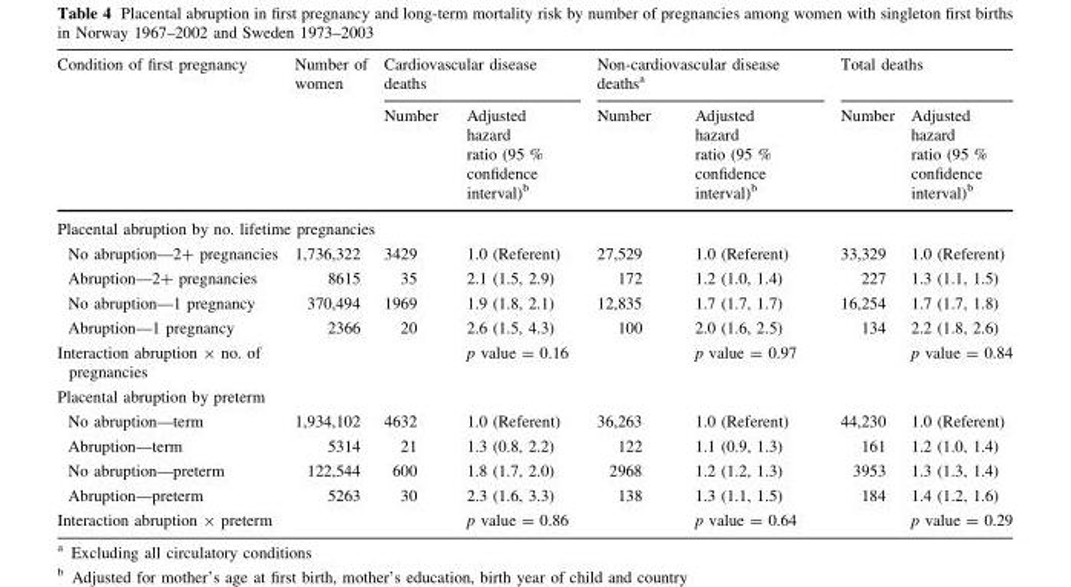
<table><thead><tr><td rowspan="2">Condition of first pregnancy</td><td rowspan="2">Number of women</td><td colspan="2">Cardiovascular disease deaths</td><td colspan="2">Non-cardiovascular disease deaths<sup>a</sup></td><td colspan="2">Total deaths</td></tr><tr><td>Number</td><td>Adjusted hazard ratio (95 % confidence interval)<sup>b</sup></td><td>Number</td><td>Adjusted hazard ratio (95 % confidence interval)<sup>b</sup></td><td>Number</td><td>Adjusted hazard ratio (95 % confidence interval)<sup>b</sup></td></tr></thead><tbody><tr><td colspan="8">Placental abruption by no. lifetime pregnancies</td></tr><tr><td>No abruption—2+ pregnancies</td><td>1,736,322</td><td>3429</td><td>1.0 (Referent)</td><td>27,529</td><td>1.0 (Referent)</td><td>33,329</td><td>1.0 (Referent)</td></tr><tr><td>Abruption—2+ pregnancies</td><td>8615</td><td>35</td><td>2.1 (1.5, 2.9)</td><td>172</td><td>1.2 (1.0, 1.4)</td><td>227</td><td>1.3 (1.1, 1.5)</td></tr><tr><td>No abruption—1 pregnancy</td><td>370,494</td><td>1969</td><td>1.9 (1.8, 2.1)</td><td>12,835</td><td>1.7 (1.7, 1.7)</td><td>16,254</td><td>1.7 (1.7, 1.8)</td></tr><tr><td>Abruption—1 pregnancy</td><td>2366</td><td>20</td><td>2.6 (1.5, 4.3)</td><td>100</td><td>2.0 (1.6, 2.5)</td><td>134</td><td>2.2 (1.8, 2.6)</td></tr><tr><td>Interaction abruption × no. of pregnancies</td><td></td><td></td><td>p value = 0.16</td><td></td><td>p value = 0.97</td><td></td><td>p value = 0.84</td></tr><tr><td colspan="8">Placental abruption by preterm</td></tr><tr><td>No abruption—term</td><td>1,934,102</td><td>4632</td><td>1.0 (Referent)</td><td>36,263</td><td>1.0 (Referent)</td><td>44,230</td><td>1.0 (Referent)</td></tr><tr><td>Abruption—term</td><td>5314</td><td>21</td><td>1.3 (0.8, 2.2)</td><td>122</td><td>1.1 (0.9, 1.3)</td><td>161</td><td>1.2 (1.0, 1.4)</td></tr><tr><td>No abruption—preterm</td><td>122,544</td><td>600</td><td>1.8 (1.7, 2.0)</td><td>2968</td><td>1.2 (1.2, 1.3)</td><td>3953</td><td>1.3 (1.3, 1.4)</td></tr><tr><td>Abruption—preterm</td><td>5263</td><td>30</td><td>2.3 (1.6, 3.3)</td><td>138</td><td>1.3 (1.1, 1.5)</td><td>184</td><td>1.4 (1.2, 1.6)</td></tr><tr><td>Interaction abruption × preterm</td><td></td><td></td><td>p value = 0.86</td><td></td><td>p value = 0.64</td><td></td><td>p value = 0.29</td></tr></tbody></table>